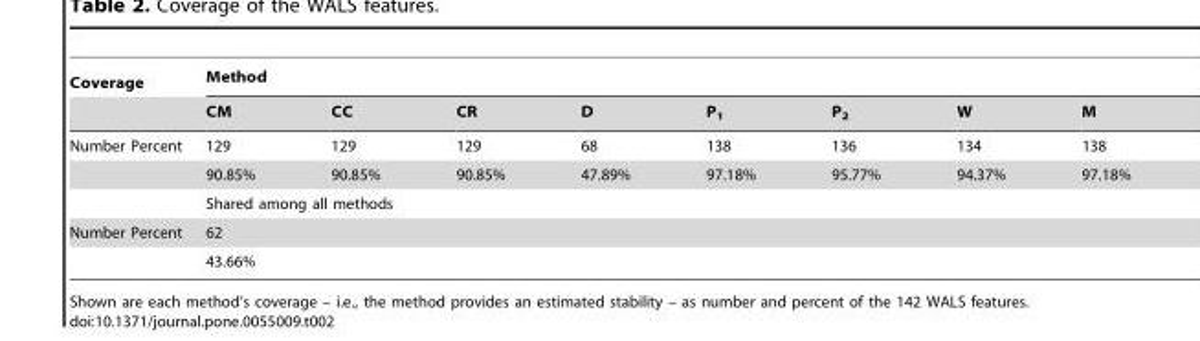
<table><thead><tr><td rowspan="2">Coverage</td><td colspan="8">Method</td></tr><tr><td>CM</td><td>CC</td><td>CR</td><td>D</td><td>P<sub>1</sub></td><td>P<sub>2</sub></td><td>W</td><td>M</td></tr></thead><tbody><tr><td rowspan="3">Number Percent</td><td>129</td><td>129</td><td>129</td><td>68</td><td>138</td><td>136</td><td>134</td><td>138</td></tr><tr><td>90.85%</td><td>90.85%</td><td>90.85%</td><td>47.89%</td><td>97.18%</td><td>95.77%</td><td>94.37%</td><td>97.18%</td></tr><tr><td colspan="8">Shared among all methods</td></tr><tr><td rowspan="2">Number Percent</td><td colspan="8">62</td></tr><tr><td colspan="8">43.66%</td></tr></tbody></table>